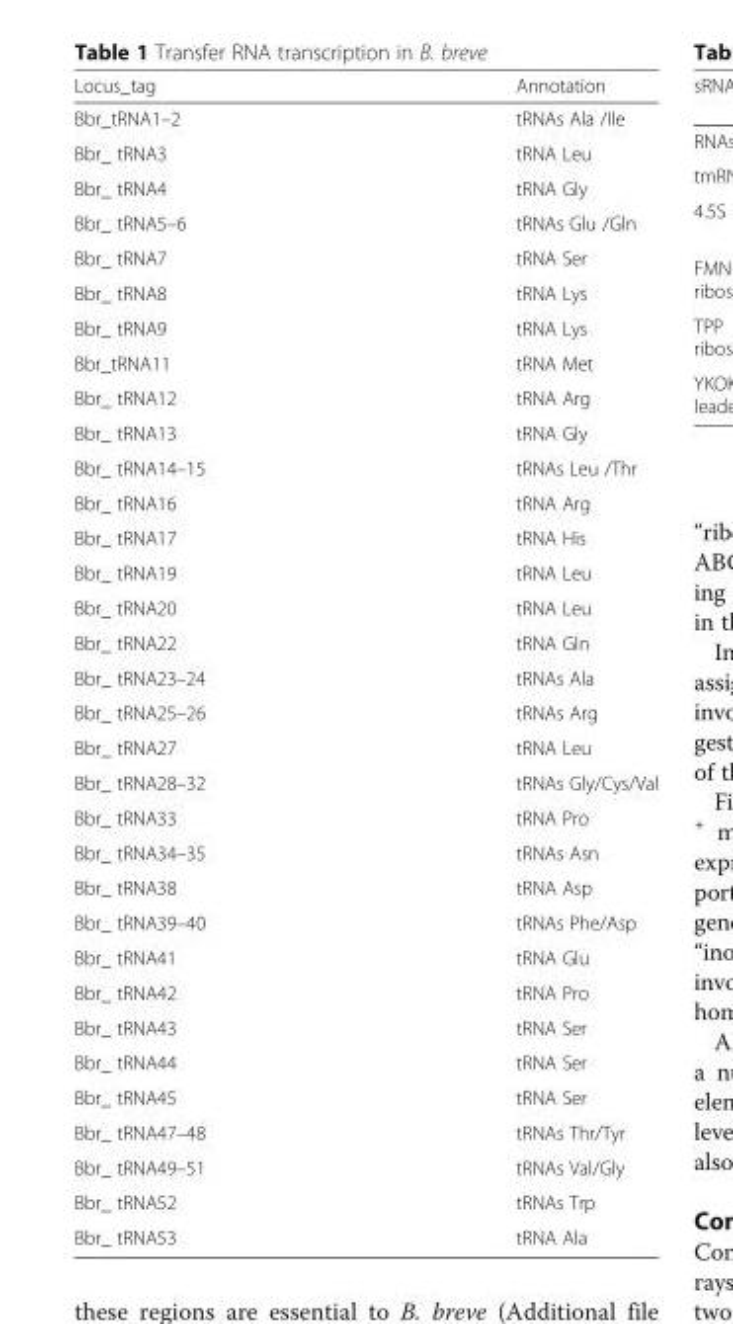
<table><thead><tr><td>Locus_tag</td><td>Annotation</td></tr></thead><tbody><tr><td>Bbr_tRNA1–2</td><td>tRNAs Ala /Ile</td></tr><tr><td>Bbr_ tRNA3</td><td>tRNA Leu</td></tr><tr><td>Bbr_ tRNA4</td><td>tRNA Gly</td></tr><tr><td>Bbr_ tRNA5–6</td><td>tRNAs Glu /Gln</td></tr><tr><td>Bbr_ tRNA7</td><td>tRNA Ser</td></tr><tr><td>Bbr_ tRNA8</td><td>tRNA Lys</td></tr><tr><td>Bbr_ tRNA9</td><td>tRNA Lys</td></tr><tr><td>Bbr_tRNA11</td><td>tRNA Met</td></tr><tr><td>Bbr_ tRNA12</td><td>tRNA Arg</td></tr><tr><td>Bbr_ tRNA13</td><td>tRNA Gly</td></tr><tr><td>Bbr_ tRNA14–15</td><td>tRNAs Leu /Thr</td></tr><tr><td>Bbr_ tRNA16</td><td>tRNA Arg</td></tr><tr><td>Bbr_ tRNA17</td><td>tRNA His</td></tr><tr><td>Bbr_ tRNA19</td><td>tRNA Leu</td></tr><tr><td>Bbr_ tRNA20</td><td>tRNA Leu</td></tr><tr><td>Bbr_ tRNA22</td><td>tRNA Gln</td></tr><tr><td>Bbr_ tRNA23–24</td><td>tRNAs Ala</td></tr><tr><td>Bbr_ tRNA25–26</td><td>tRNAs Arg</td></tr><tr><td>Bbr_ tRNA27</td><td>tRNA Leu</td></tr><tr><td>Bbr_ tRNA28–32</td><td>tRNAs Gly/Cys/Val</td></tr><tr><td>Bbr_ tRNA33</td><td>tRNA Pro</td></tr><tr><td>Bbr_ tRNA34–35</td><td>tRNAs Asn</td></tr><tr><td>Bbr_ tRNA38</td><td>tRNA Asp</td></tr><tr><td>Bbr_ tRNA39–40</td><td>tRNAs Phe/Asp</td></tr><tr><td>Bbr_ tRNA41</td><td>tRNA Glu</td></tr><tr><td>Bbr_ tRNA42</td><td>tRNA Pro</td></tr><tr><td>Bbr_ tRNA43</td><td>tRNA Ser</td></tr><tr><td>Bbr_ tRNA44</td><td>tRNA Ser</td></tr><tr><td>Bbr_ tRNA45</td><td>tRNA Ser</td></tr><tr><td>Bbr_ tRNA47–48</td><td>tRNAs Thr/Tyr</td></tr><tr><td>Bbr_ tRNA49–51</td><td>tRNAs Val/Gly</td></tr><tr><td>Bbr_ tRNA52</td><td>tRNAs Trp</td></tr><tr><td>Bbr_ tRNA53</td><td>tRNA Ala</td></tr></tbody></table>